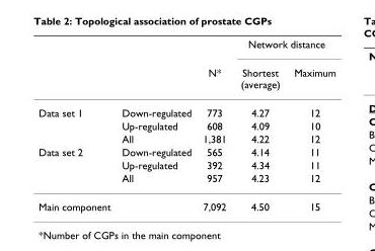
<table><thead><tr><td rowspan="2"></td><td rowspan="2"></td><td rowspan="2">N*</td><td colspan="2">Network distance</td></tr><tr><td>Shortest (average)</td><td>Maximum</td></tr></thead><tbody><tr><td rowspan="3">Data set 1</td><td>Down-regulated</td><td>773</td><td>4.27</td><td>12</td></tr><tr><td>Up-regulated</td><td>608</td><td>4.09</td><td>10</td></tr><tr><td>All</td><td>1,381</td><td>4.22</td><td>12</td></tr><tr><td rowspan="3">Data set 2</td><td>Down-regulated</td><td>565</td><td>4.14</td><td>11</td></tr><tr><td>Up-regulated</td><td>392</td><td>4.34</td><td>11</td></tr><tr><td>All</td><td>957</td><td>4.23</td><td>12</td></tr><tr><td>Main component</td><td></td><td>7,092</td><td>4.50</td><td>15</td></tr></tbody></table>